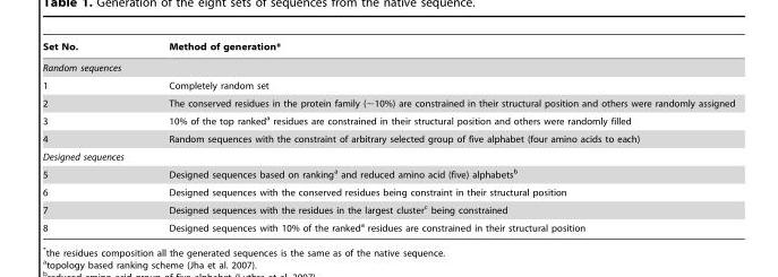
<table><thead><tr><td>Set No.</td><td>Method of generation*</td></tr></thead><tbody><tr><td colspan="2">Random sequences</td></tr><tr><td>1</td><td>Completely random set</td></tr><tr><td>2</td><td>The conserved residues in the protein family (∼10%) are constrained in their structural position and others were randomly assigned</td></tr><tr><td>3</td><td>10% of the top ranked<sup>a</sup> residues are constrained in their structural position and others were randomly filled</td></tr><tr><td>4</td><td>Random sequences with the constraint of arbitrary selected group of five alphabet (four amino acids to each)</td></tr><tr><td colspan="2">Designed sequences</td></tr><tr><td>5</td><td>Designed sequences based on ranking<sup>a</sup> and reduced amino acid (five) alphabets<sup>b</sup></td></tr><tr><td>6</td><td>Designed sequences with the conserved residues being constraint in their structural position</td></tr><tr><td>7</td><td>Designed sequences with the residues in the largest cluster<sup>c</sup> being constrained</td></tr><tr><td>8</td><td>Designed sequences with 10% of the ranked<sup>a</sup> residues are constrained in their structural position</td></tr></tbody></table>